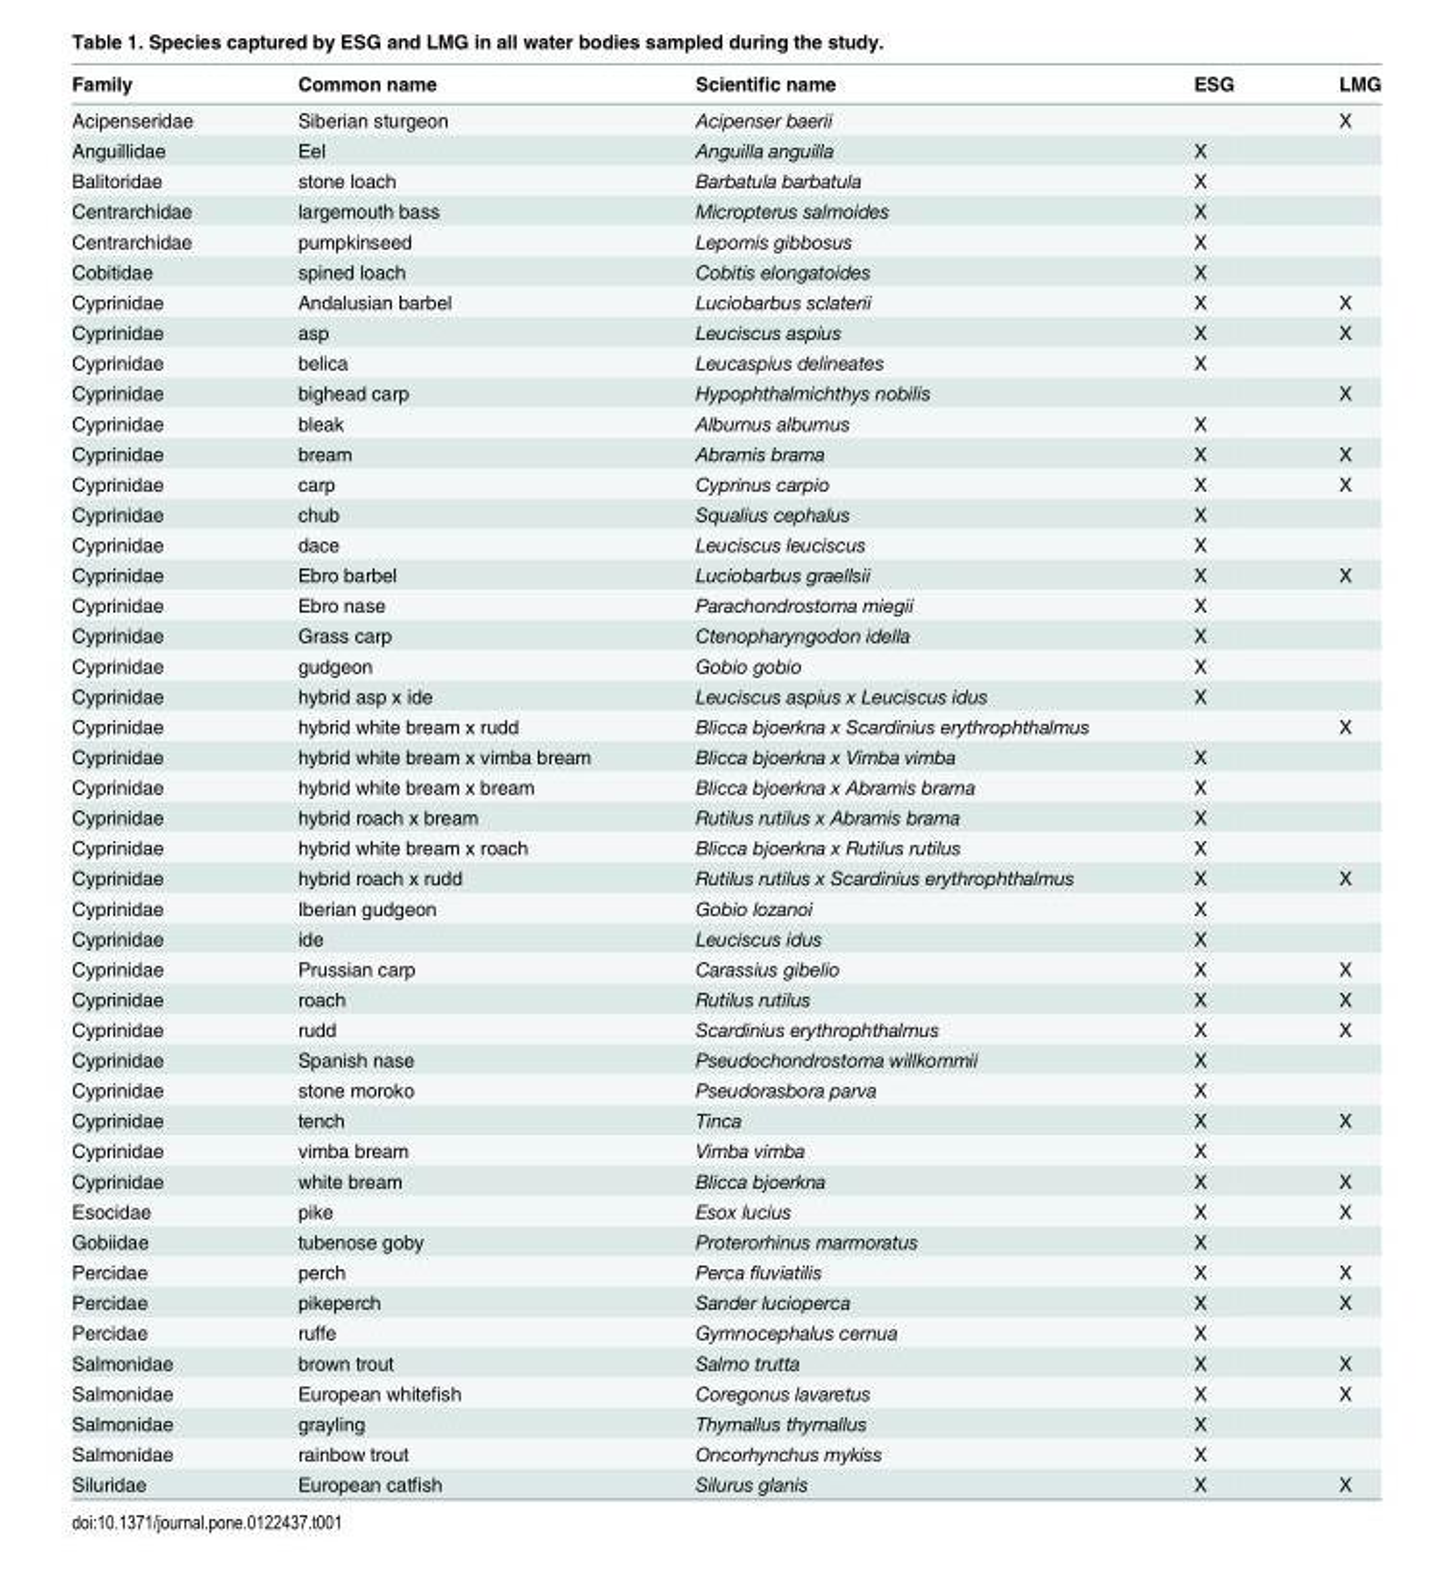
<table><thead><tr><td>Family</td><td>Common name</td><td>Scientific name</td><td>ESG</td><td>LMG</td></tr></thead><tbody><tr><td>Acipenseridae</td><td>Siberian sturgeon</td><td>Acipenser baerii</td><td></td><td>X</td></tr><tr><td>Anguillidae</td><td>Eel</td><td>Anguilla anguilla</td><td>X</td><td></td></tr><tr><td>Balitoridae</td><td>stone loach</td><td>Barbatula barbatula</td><td>X</td><td></td></tr><tr><td>Centrarchidae</td><td>largemouth bass</td><td>Micropterus salmoides</td><td>X</td><td></td></tr><tr><td>Centrarchidae</td><td>pumpkinseed</td><td>Lepomis gibbosus</td><td>X</td><td></td></tr><tr><td>Cobitidae</td><td>spined loach</td><td>Cobitis elongatoides</td><td>X</td><td></td></tr><tr><td>Cyprinidae</td><td>Andalusian barbel</td><td>Luciobarbus sclaterii</td><td>X</td><td>X</td></tr><tr><td>Cyprinidae</td><td>asp</td><td>Leuciscus aspius</td><td>X</td><td>X</td></tr><tr><td>Cyprinidae</td><td>belica</td><td>Leucaspius delineates</td><td>X</td><td></td></tr><tr><td>Cyprinidae</td><td>bighead carp</td><td>Hypophthalmichthys nobilis</td><td></td><td>X</td></tr><tr><td>Cyprinidae</td><td>bleak</td><td>Alburnus alburnus</td><td>X</td><td></td></tr><tr><td>Cyprinidae</td><td>bream</td><td>Abramis brama</td><td>X</td><td>X</td></tr><tr><td>Cyprinidae</td><td>carp</td><td>Cyprinus carpio</td><td>X</td><td>X</td></tr><tr><td>Cyprinidae</td><td>chub</td><td>Squalius cephalus</td><td>X</td><td></td></tr><tr><td>Cyprinidae</td><td>dace</td><td>Leuciscus leuciscus</td><td>X</td><td></td></tr><tr><td>Cyprinidae</td><td>Ebro barbel</td><td>Luciobarbus graellsii</td><td>X</td><td>X</td></tr><tr><td>Cyprinidae</td><td>Ebro nase</td><td>Parachondrostoma miegii</td><td>X</td><td></td></tr><tr><td>Cyprinidae</td><td>Grass carp</td><td>Ctenopharyngodon idella</td><td>X</td><td></td></tr><tr><td>Cyprinidae</td><td>gudgeon</td><td>Gobio gobio</td><td>X</td><td></td></tr><tr><td>Cyprinidae</td><td>hybrid asp x ide</td><td>Leuciscus aspius x Leuciscus idus</td><td>X</td><td></td></tr><tr><td>Cyprinidae</td><td>hybrid white bream x rudd</td><td>Blicca bjoerkna x Scardinius erythrophthalmus</td><td></td><td>X</td></tr><tr><td>Cyprinidae</td><td>hybrid white bream x vimba bream</td><td>Blicca bjoerkna x Vimba vimba</td><td>X</td><td></td></tr><tr><td>Cyprinidae</td><td>hybrid white bream x bream</td><td>Blicca bjoerkna x Abramis brama</td><td>X</td><td></td></tr><tr><td>Cyprinidae</td><td>hybrid roach x bream</td><td>Rutilus rutilus x Abramis brama</td><td>X</td><td></td></tr><tr><td>Cyprinidae</td><td>hybrid white bream x roach</td><td>Blicca bjoerkna x Rutilus rutilus</td><td>X</td><td></td></tr><tr><td>Cyprinidae</td><td>hybrid roach x rudd</td><td>Rutilus rutilus x Scardinius erythrophthalmus</td><td>X</td><td>X</td></tr><tr><td>Cyprinidae</td><td>Iberian gudgeon</td><td>Gobio lozanoi</td><td>X</td><td></td></tr><tr><td>Cyprinidae</td><td>ide</td><td>Leuciscus idus</td><td>X</td><td></td></tr><tr><td>Cyprinidae</td><td>Prussian carp</td><td>Carassius gibelio</td><td>X</td><td>X</td></tr><tr><td>Cyprinidae</td><td>roach</td><td>Rutilus rutilus</td><td>X</td><td>X</td></tr><tr><td>Cyprinidae</td><td>rudd</td><td>Scardinius erythrophthalmus</td><td>X</td><td>X</td></tr><tr><td>Cyprinidae</td><td>Spanish nase</td><td>Pseudochondrostoma willkommii</td><td>X</td><td></td></tr><tr><td>Cyprinidae</td><td>stone moroko</td><td>Pseudorasbora parva</td><td>X</td><td></td></tr><tr><td>Cyprinidae</td><td>tench</td><td>Tinca</td><td>X</td><td>X</td></tr><tr><td>Cyprinidae</td><td>vimba bream</td><td>Vimba vimba</td><td>X</td><td></td></tr><tr><td>Cyprinidae</td><td>white bream</td><td>Blicca bjoerkna</td><td>X</td><td>X</td></tr><tr><td>Esocidae</td><td>pike</td><td>Esox lucius</td><td>X</td><td>X</td></tr><tr><td>Gobiidae</td><td>tubenose goby</td><td>Proterorhinus marmoratus</td><td>X</td><td></td></tr><tr><td>Percidae</td><td>perch</td><td>Perca fluviatilis</td><td>X</td><td>X</td></tr><tr><td>Percidae</td><td>pikeperch</td><td>Sander lucioperca</td><td>X</td><td>X</td></tr><tr><td>Percidae</td><td>ruffe</td><td>Gymnocephalus cernua</td><td>X</td><td></td></tr><tr><td>Salmonidae</td><td>brown trout</td><td>Salmo trutta</td><td>X</td><td>X</td></tr><tr><td>Salmonidae</td><td>European whitefish</td><td>Coregonus lavaretus</td><td>X</td><td>X</td></tr><tr><td>Salmonidae</td><td>grayling</td><td>Thymallus thymallus</td><td>X</td><td></td></tr><tr><td>Salmonidae</td><td>rainbow trout</td><td>Oncorhynchus mykiss</td><td>X</td><td></td></tr><tr><td>Siluridae</td><td>European catfish</td><td>Silurus glanis</td><td>X</td><td>X</td></tr></tbody></table>